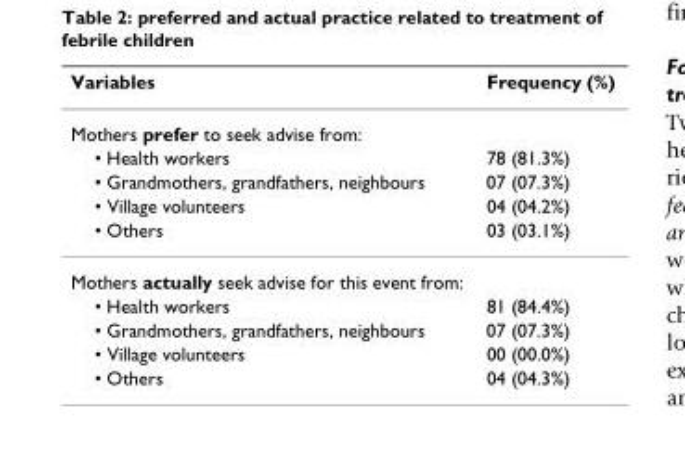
<table><thead><tr><td>Variables</td><td>Frequency (%)</td></tr></thead><tbody><tr><td colspan="2">Mothers prefer to seek advise from:</td></tr><tr><td>• Health workers</td><td>78 (81.3%)</td></tr><tr><td>• Grandmothers, grandfathers, neighbours</td><td>07 (07.3%)</td></tr><tr><td>• Village volunteers</td><td>04 (04.2%)</td></tr><tr><td>• Others</td><td>03 (03.1%)</td></tr><tr><td colspan="2">Mothers actually seek advise for this event from:</td></tr><tr><td>• Health workers</td><td>81 (84.4%)</td></tr><tr><td>• Grandmothers, grandfathers, neighbours</td><td>07 (07.3%)</td></tr><tr><td>• Village volunteers</td><td>00 (00.0%)</td></tr><tr><td>• Others</td><td>04 (04.3%)</td></tr></tbody></table>